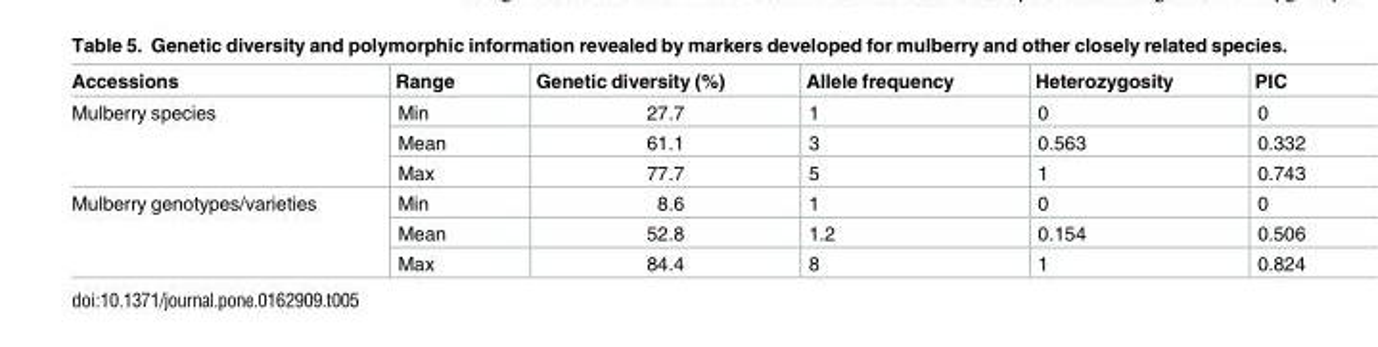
<table><thead><tr><td>Accessions</td><td>Range</td><td>Genetic diversity (%)</td><td>Allele frequency</td><td>Heterozygosity</td><td>PIC</td></tr></thead><tbody><tr><td rowspan="3">Mulberry species</td><td>Min</td><td>27.7</td><td>1</td><td>0</td><td>0</td></tr><tr><td>Mean</td><td>61.1</td><td>3</td><td>0.563</td><td>0.332</td></tr><tr><td>Max</td><td>77.7</td><td>5</td><td>1</td><td>0.743</td></tr><tr><td rowspan="3">Mulberry genotypes/varieties</td><td>Min</td><td>8.6</td><td>1</td><td>0</td><td>0</td></tr><tr><td>Mean</td><td>52.8</td><td>1.2</td><td>0.154</td><td>0.506</td></tr><tr><td>Max</td><td>84.4</td><td>8</td><td>1</td><td>0.824</td></tr></tbody></table>